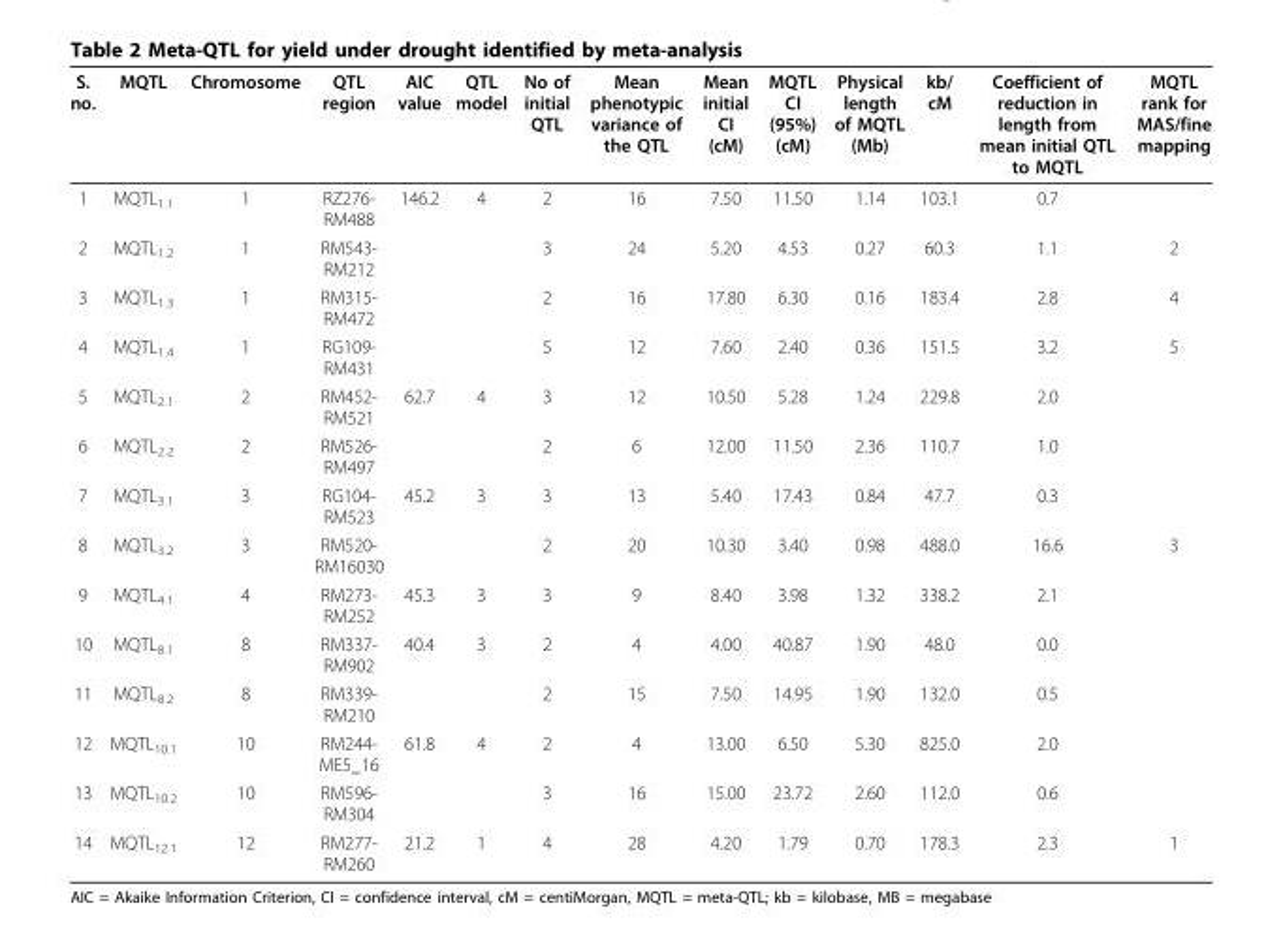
<table><thead><tr><td>S. no.</td><td>MQTL</td><td>Chromosome</td><td>QTL region</td><td>AIC value</td><td>QTL model</td><td>No of initial QTL</td><td>Mean phenotypic variance of the QTL</td><td>Mean initial CI (cM)</td><td>MQTL CI (95%) (cM)</td><td>Physical length of MQTL (Mb)</td><td>kb/ cM</td><td>Coefficient of reduction in length from mean initial QTL to MQTL</td><td>MQTL rank for MAS/fine mapping</td></tr></thead><tbody><tr><td>1</td><td>MQTL<sub>1.1</sub></td><td>1</td><td>RZ276- RM488</td><td>146.2</td><td>4</td><td>2</td><td>16</td><td>7.50</td><td>11.50</td><td>1.14</td><td>103.1</td><td>0.7</td><td></td></tr><tr><td>2</td><td>MQTL<sub>1.2</sub></td><td>1</td><td>RM543- RM212</td><td></td><td></td><td>3</td><td>24</td><td>5.20</td><td>4.53</td><td>0.27</td><td>60.3</td><td>1.1</td><td>2</td></tr><tr><td>3</td><td>MQTL<sub>1.3</sub></td><td>1</td><td>RM315- RM472</td><td></td><td></td><td>2</td><td>16</td><td>17.80</td><td>6.30</td><td>0.16</td><td>183.4</td><td>2.8</td><td>4</td></tr><tr><td>4</td><td>MQTL<sub>1.4</sub></td><td>1</td><td>RG109- RM431</td><td></td><td></td><td>5</td><td>12</td><td>7.60</td><td>2.40</td><td>0.36</td><td>151.5</td><td>3.2</td><td>5</td></tr><tr><td>5</td><td>MQTL<sub>2.1</sub></td><td>2</td><td>RM452- RM521</td><td>62.7</td><td>4</td><td>3</td><td>12</td><td>10.50</td><td>5.28</td><td>1.24</td><td>229.8</td><td>2.0</td><td></td></tr><tr><td>6</td><td>MQTL<sub>2.2</sub></td><td>2</td><td>RM526- RM497</td><td></td><td></td><td>2</td><td>6</td><td>12.00</td><td>11.50</td><td>2.36</td><td>110.7</td><td>1.0</td><td></td></tr><tr><td>7</td><td>MQTL<sub>3.1</sub></td><td>3</td><td>RG104- RM523</td><td>45.2</td><td>3</td><td>3</td><td>13</td><td>5.40</td><td>17.43</td><td>0.84</td><td>47.7</td><td>0.3</td><td></td></tr><tr><td>8</td><td>MQTL<sub>3.2</sub></td><td>3</td><td>RM520- RM16030</td><td></td><td></td><td>2</td><td>20</td><td>10.30</td><td>3.40</td><td>0.98</td><td>488.0</td><td>16.6</td><td>3</td></tr><tr><td>9</td><td>MQTL<sub>4.1</sub></td><td>4</td><td>RM273- RM252</td><td>45.3</td><td>3</td><td>3</td><td>9</td><td>8.40</td><td>3.98</td><td>1.32</td><td>338.2</td><td>2.1</td><td></td></tr><tr><td>10</td><td>MQTL<sub>8.1</sub></td><td>8</td><td>RM337- RM902</td><td>40.4</td><td>3</td><td>2</td><td>4</td><td>4.00</td><td>40.87</td><td>1.90</td><td>48.0</td><td>0.0</td><td></td></tr><tr><td>11</td><td>MQTL<sub>8.2</sub></td><td>8</td><td>RM339- RM210</td><td></td><td></td><td>2</td><td>15</td><td>7.50</td><td>14.95</td><td>1.90</td><td>132.0</td><td>0.5</td><td></td></tr><tr><td>12</td><td>MQTL<sub>10.1</sub></td><td>10</td><td>RM244- ME5_16</td><td>61.8</td><td>4</td><td>2</td><td>4</td><td>13.00</td><td>6.50</td><td>5.30</td><td>825.0</td><td>2.0</td><td></td></tr><tr><td>13</td><td>MQTL<sub>10.2</sub></td><td>10</td><td>RM596- RM304</td><td></td><td></td><td>3</td><td>16</td><td>15.00</td><td>23.72</td><td>2.60</td><td>112.0</td><td>0.6</td><td></td></tr><tr><td>14</td><td>MQTL<sub>12.1</sub></td><td>12</td><td>RM277- RM260</td><td>21.2</td><td>1</td><td>4</td><td>28</td><td>4.20</td><td>1.79</td><td>0.70</td><td>178.3</td><td>2.3</td><td>1</td></tr></tbody></table>